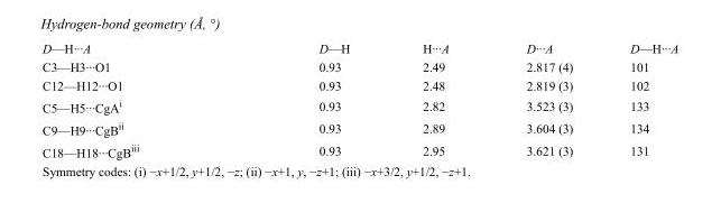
<table><tbody><tr><td>D—H···A</td><td>D—H</td><td>H···A</td><td>D···A</td><td>D—H···A</td></tr><tr><td>C3—H3···O1</td><td>0.93</td><td>2.49</td><td>2.817 (4)</td><td>101</td></tr><tr><td>C12—H12···O1</td><td>0.93</td><td>2.48</td><td>2.819 (3)</td><td>102</td></tr><tr><td>C5—H5···CgA<sup>i</sup></td><td>0.93</td><td>2.82</td><td>3.523 (3)</td><td>133</td></tr><tr><td>C9—H9···CgB<sup>ii</sup></td><td>0.93</td><td>2.89</td><td>3.604 (3)</td><td>134</td></tr><tr><td>C18—H18···CgB<sup>iii</sup></td><td>0.93</td><td>2.95</td><td>3.621 (3)</td><td>131</td></tr></tbody></table>